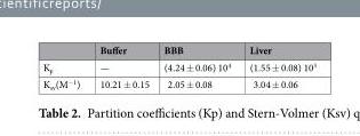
<table><thead><tr><td></td><td>Buffer</td><td>BBB</td><td>Liver</td></tr></thead><tbody><tr><td>K<sub>p</sub></td><td>—</td><td>(4.24 ± 0.06) 10<sup>4</sup></td><td>(1.55 ± 0.08) 10<sup>3</sup></td></tr><tr><td>K<sub>sv</sub>(M<sup>−1</sup>)</td><td>10.21 ± 0.15</td><td>2.05 ± 0.08</td><td>3.04 ± 0.06</td></tr></tbody></table>